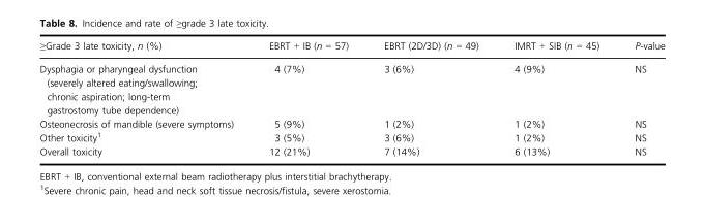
<table><thead><tr><td>≥Grade 3 late toxicity, n (%)</td><td>EBRT + IB (n = 57)</td><td>EBRT (2D/3D) (n = 49)</td><td>IMRT + SIB (n = 45)</td><td>P-value</td></tr></thead><tbody><tr><td>Dysphagia or pharyngeal dysfunction (severely altered eating/swallowing; chronic aspiration; long-term gastrostomy tube dependence)</td><td>4 (7%)</td><td>3 (6%)</td><td>4 (9%)</td><td>NS</td></tr><tr><td>Osteonecrosis of mandible (severe symptoms)</td><td>5 (9%)</td><td>1 (2%)</td><td>1 (2%)</td><td>NS</td></tr><tr><td>Other toxicity<sup>1</sup></td><td>3 (5%)</td><td>3 (6%)</td><td>1 (2%)</td><td>NS</td></tr><tr><td>Overall toxicity</td><td>12 (21%)</td><td>7 (14%)</td><td>6 (13%)</td><td>NS</td></tr></tbody></table>